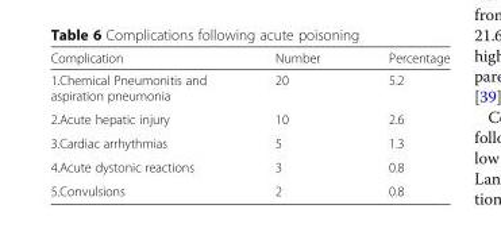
<table><thead><tr><td>Complication</td><td>Number</td><td>Percentage</td></tr></thead><tbody><tr><td>1.Chemical Pneumonitis and aspiration pneumonia</td><td>20</td><td>5.2</td></tr><tr><td>2.Acute hepatic injury</td><td>10</td><td>2.6</td></tr><tr><td>3.Cardiac arrhythmias</td><td>5</td><td>1.3</td></tr><tr><td>4.Acute dystonic reactions</td><td>3</td><td>0.8</td></tr><tr><td>5.Convulsions</td><td>2</td><td>0.8</td></tr></tbody></table>